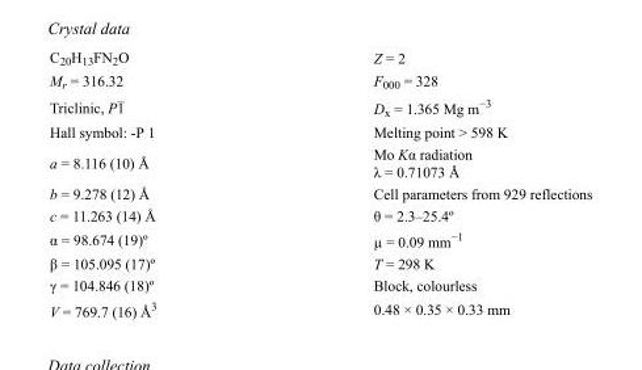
<table><tbody><tr><td>C<sub>20</sub>H<sub>13</sub>FN<sub>2</sub>O</td><td>Z = 2</td></tr><tr><td>M<sub>r</sub> = 316.32</td><td>F000 = 328</td></tr><tr><td>Triclinic, P1</td><td>D<sub>x</sub> = 1.365 Mg m<sup>−3</sup></td></tr><tr><td>Hall symbol: -P 1</td><td>Melting point &gt; 598 K</td></tr><tr><td>a = 8.116 (10) Å</td><td>Mo Kα radiation λ = 0.71073 Å</td></tr><tr><td>b = 9.278 (12) Å</td><td>Cell parameters from 929 reflections</td></tr><tr><td>c = 11.263 (14) Å</td><td>θ = 2.3–25.4º</td></tr><tr><td>α = 98.674 (19)º</td><td>µ = 0.09 mm<sup>−1</sup></td></tr><tr><td>β = 105.095 (17)º</td><td>T = 298 K</td></tr><tr><td>γ = 104.846 (18)º</td><td>Block, colourless</td></tr><tr><td>V = 769.7 (16) Å<sup>3</sup></td><td>0.48 × 0.35 × 0.33 mm</td></tr></tbody></table>